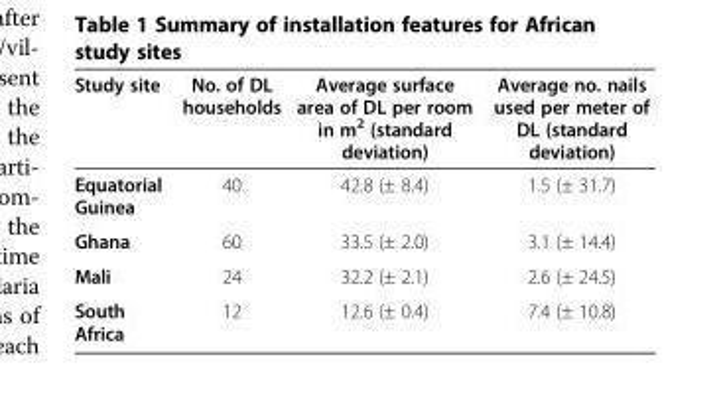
<table><thead><tr><td>Study site</td><td>No. of DL households</td><td>Average surface area of DL per room in m<sup>2</sup> (standard deviation)</td><td>Average no. nails used per meter of DL (standard deviation)</td></tr></thead><tbody><tr><td>Equatorial Guinea</td><td>40</td><td>42.8 (± 8.4)</td><td>1.5 (± 31.7)</td></tr><tr><td>Ghana</td><td>60</td><td>33.5 (± 2.0)</td><td>3.1 (± 14.4)</td></tr><tr><td>Mali</td><td>24</td><td>32.2 (± 2.1)</td><td>2.6 (± 24.5)</td></tr><tr><td>South Africa</td><td>12</td><td>12.6 (± 0.4)</td><td>7.4 (± 10.8)</td></tr></tbody></table>